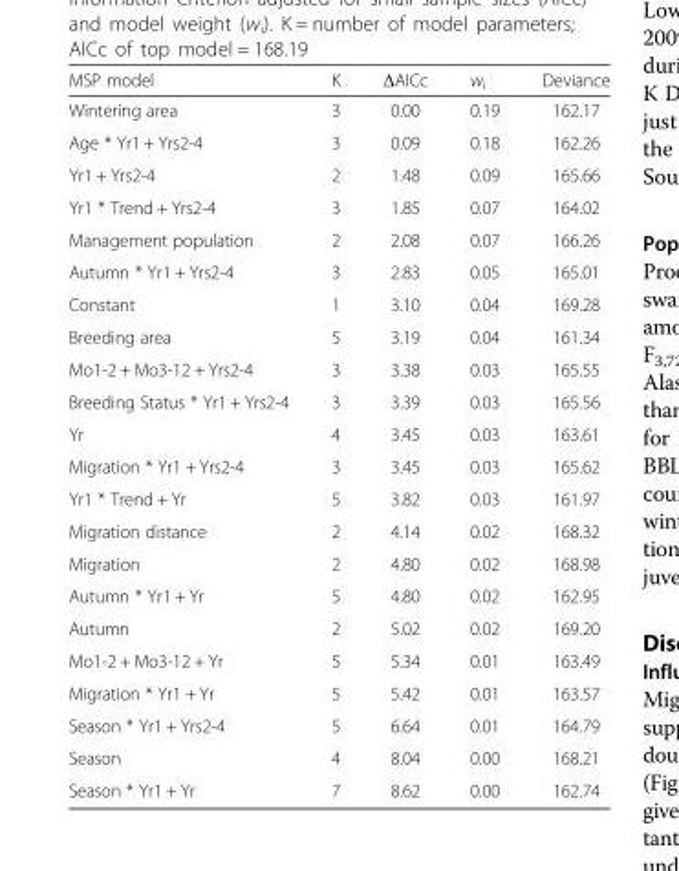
<table><thead><tr><td>MSP model</td><td>K</td><td>ΔAICc</td><td>w<sub>i</sub></td><td>Deviance</td></tr></thead><tbody><tr><td>Wintering area</td><td>3</td><td>0.00</td><td>0.19</td><td>162.17</td></tr><tr><td>Age * Yr1 + Yrs2-4</td><td>3</td><td>0.09</td><td>0.18</td><td>162.26</td></tr><tr><td>Yr1 + Yrs2-4</td><td>2</td><td>1.48</td><td>0.09</td><td>165.66</td></tr><tr><td>Yr1 * Trend + Yrs2-4</td><td>3</td><td>1.85</td><td>0.07</td><td>164.02</td></tr><tr><td>Management population</td><td>2</td><td>2.08</td><td>0.07</td><td>166.26</td></tr><tr><td>Autumn * Yr1 + Yrs2-4</td><td>3</td><td>2.83</td><td>0.05</td><td>165.01</td></tr><tr><td>Constant</td><td>1</td><td>3.10</td><td>0.04</td><td>169.28</td></tr><tr><td>Breeding area</td><td>5</td><td>3.19</td><td>0.04</td><td>161.34</td></tr><tr><td>Mo1-2 + Mo3-12 + Yrs2-4</td><td>3</td><td>3.38</td><td>0.03</td><td>165.55</td></tr><tr><td>Breeding Status * Yr1 + Yrs2-4</td><td>3</td><td>3.39</td><td>0.03</td><td>165.56</td></tr><tr><td>Yr</td><td>4</td><td>3.45</td><td>0.03</td><td>163.61</td></tr><tr><td>Migration * Yr1 + Yrs2-4</td><td>3</td><td>3.45</td><td>0.03</td><td>165.62</td></tr><tr><td>Yr1 * Trend + Yr</td><td>5</td><td>3.82</td><td>0.03</td><td>161.97</td></tr><tr><td>Migration distance</td><td>2</td><td>4.14</td><td>0.02</td><td>168.32</td></tr><tr><td>Migration</td><td>2</td><td>4.80</td><td>0.02</td><td>168.98</td></tr><tr><td>Autumn * Yr1 + Yr</td><td>5</td><td>4.80</td><td>0.02</td><td>162.95</td></tr><tr><td>Autumn</td><td>2</td><td>5.02</td><td>0.02</td><td>169.20</td></tr><tr><td>Mo1-2 + Mo3-12 + Yr</td><td>5</td><td>5.34</td><td>0.01</td><td>163.49</td></tr><tr><td>Migration * Yr1 + Yr</td><td>5</td><td>5.42</td><td>0.01</td><td>163.57</td></tr><tr><td>Season * Yr1 + Yrs2-4</td><td>5</td><td>6.64</td><td>0.01</td><td>164.79</td></tr><tr><td>Season</td><td>4</td><td>8.04</td><td>0.00</td><td>168.21</td></tr><tr><td>Season * Yr1 + Yr</td><td>7</td><td>8.62</td><td>0.00</td><td>162.74</td></tr></tbody></table>